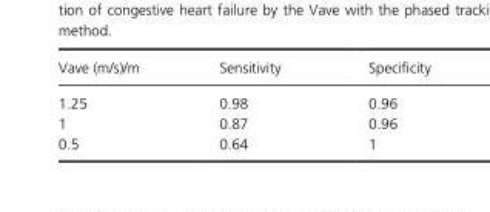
<table><thead><tr><td>Vave (m/s)/m</td><td>Sensitivity</td><td>Specificity</td></tr></thead><tbody><tr><td>1.25</td><td>0.98</td><td>0.96</td></tr><tr><td>1</td><td>0.87</td><td>0.96</td></tr><tr><td>0.5</td><td>0.64</td><td>1</td></tr></tbody></table>